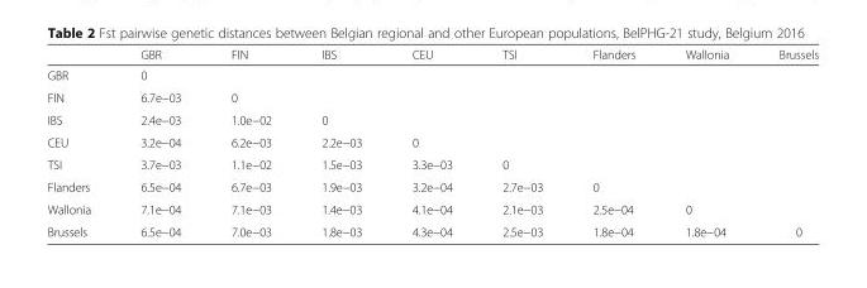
<table><thead><tr><td></td><td>GBR</td><td>FIN</td><td>IBS</td><td>CEU</td><td>TSI</td><td>Flanders</td><td>Wallonia</td><td>Brussels</td></tr></thead><tbody><tr><td>GBR</td><td>0</td><td></td><td></td><td></td><td></td><td></td><td></td><td></td></tr><tr><td>FIN</td><td>6.7e−03</td><td>0</td><td></td><td></td><td></td><td></td><td></td><td></td></tr><tr><td>IBS</td><td>2.4e−03</td><td>1.0e−02</td><td>0</td><td></td><td></td><td></td><td></td><td></td></tr><tr><td>CEU</td><td>3.2e−04</td><td>6.2e−03</td><td>2.2e−03</td><td>0</td><td></td><td></td><td></td><td></td></tr><tr><td>TSI</td><td>3.7e−03</td><td>1.1e−02</td><td>1.5e−03</td><td>3.3e−03</td><td>0</td><td></td><td></td><td></td></tr><tr><td>Flanders</td><td>6.5e−04</td><td>6.7e−03</td><td>1.9e−03</td><td>3.2e−04</td><td>2.7e−03</td><td>0</td><td></td><td></td></tr><tr><td>Wallonia</td><td>7.1e−04</td><td>7.1e−03</td><td>1.4e−03</td><td>4.1e−04</td><td>2.1e−03</td><td>2.5e−04</td><td>0</td><td></td></tr><tr><td>Brussels</td><td>6.5e−04</td><td>7.0e−03</td><td>1.8e−03</td><td>4.3e−04</td><td>2.5e−03</td><td>1.8e−04</td><td>1.8e−04</td><td>0</td></tr></tbody></table>